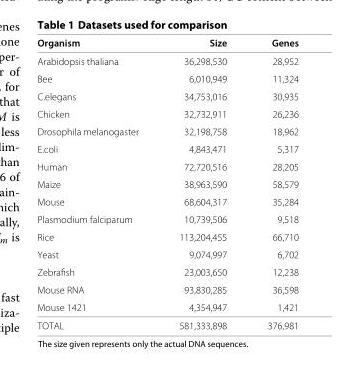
<table><thead><tr><td>Organism</td><td>Size</td><td>Genes</td></tr></thead><tbody><tr><td>Arabidopsis thaliana</td><td>36,298,530</td><td>28,952</td></tr><tr><td>Bee</td><td>6,010,949</td><td>11,324</td></tr><tr><td>C.elegans</td><td>34,753,016</td><td>30,935</td></tr><tr><td>Chicken</td><td>32,732,911</td><td>26,236</td></tr><tr><td>Drosophila melanogaster</td><td>32,198,758</td><td>18,962</td></tr><tr><td>E.coli</td><td>4,843,471</td><td>5,317</td></tr><tr><td>Human</td><td>72,720,516</td><td>28,205</td></tr><tr><td>Maize</td><td>38,963,590</td><td>58,579</td></tr><tr><td>Mouse</td><td>68,604,317</td><td>35,284</td></tr><tr><td>Plasmodium falciparum</td><td>10,739,506</td><td>9,518</td></tr><tr><td>Rice</td><td>113,204,455</td><td>66,710</td></tr><tr><td>Yeast</td><td>9,074,997</td><td>6,702</td></tr><tr><td>Zebrafish</td><td>23,003,650</td><td>12,238</td></tr><tr><td>Mouse RNA</td><td>93,830,285</td><td>36,598</td></tr><tr><td>Mouse 1421</td><td>4,354,947</td><td>1,421</td></tr><tr><td>TOTAL</td><td>581,333,898</td><td>376,981</td></tr></tbody></table>